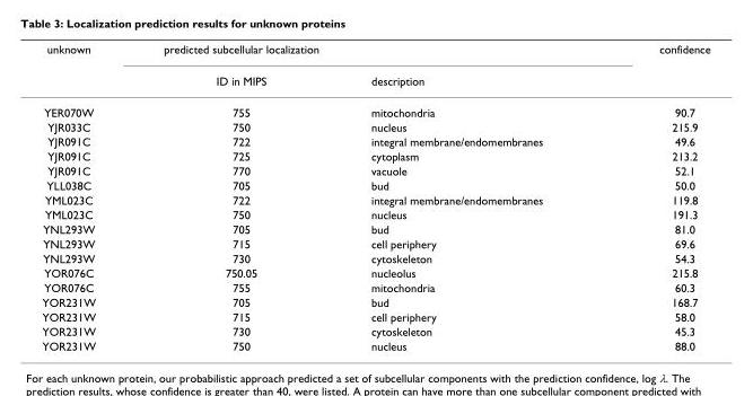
<table><thead><tr><td rowspan="2">unknown</td><td rowspan="2">predicted subcellular localization ID in MIPS</td><td rowspan="2">description</td><td rowspan="2">confidence</td></tr><tr></tr></thead><tbody><tr><td>YER070W</td><td>755</td><td>mitochondria</td><td>90.7</td></tr><tr><td>YJR033C</td><td>750</td><td>nucleus</td><td>215.9</td></tr><tr><td>YJR091C</td><td>722</td><td>integral membrane/endomembranes</td><td>49.6</td></tr><tr><td>YJR091C</td><td>725</td><td>cytoplasm</td><td>213.2</td></tr><tr><td>YJR091C</td><td>770</td><td>vacuole</td><td>52.1</td></tr><tr><td>YLL038C</td><td>705</td><td>bud</td><td>50.0</td></tr><tr><td>YML023C</td><td>722</td><td>integral membrane/endomembranes</td><td>119.8</td></tr><tr><td>YML023C</td><td>750</td><td>nucleus</td><td>191.3</td></tr><tr><td>YNL293W</td><td>705</td><td>bud</td><td>81.0</td></tr><tr><td>YNL293W</td><td>715</td><td>cell periphery</td><td>69.6</td></tr><tr><td>YNL293W</td><td>730</td><td>cytoskeleton</td><td>54.3</td></tr><tr><td>YOR076C</td><td>750.05</td><td>nucleolus</td><td>215.8</td></tr><tr><td>YOR076C</td><td>755</td><td>mitochondria</td><td>60.3</td></tr><tr><td>YOR231W</td><td>705</td><td>bud</td><td>168.7</td></tr><tr><td>YOR231W</td><td>715</td><td>cell periphery</td><td>58.0</td></tr><tr><td>YOR231W</td><td>730</td><td>cytoskeleton</td><td>45.3</td></tr><tr><td>YOR231W</td><td>750</td><td>nucleus</td><td>88.0</td></tr></tbody></table>